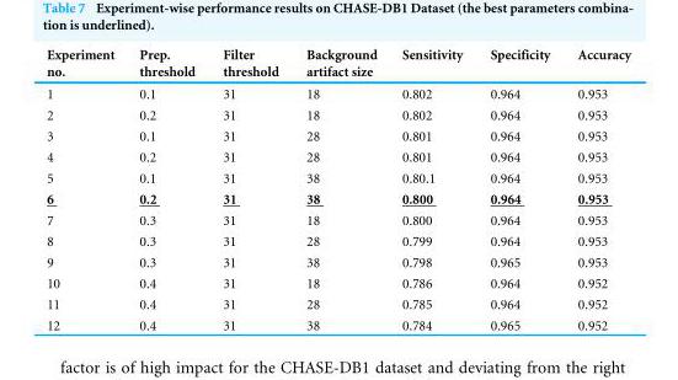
<table><thead><tr><td>Experiment no.</td><td>Prep. threshold</td><td>Filter threshold</td><td>Background artifact size</td><td>Sensitivity</td><td>Specificity</td><td>Accuracy</td></tr></thead><tbody><tr><td>1</td><td>0.1</td><td>31</td><td>18</td><td>0.802</td><td>0.964</td><td>0.953</td></tr><tr><td>2</td><td>0.2</td><td>31</td><td>18</td><td>0.802</td><td>0.964</td><td>0.953</td></tr><tr><td>3</td><td>0.1</td><td>31</td><td>28</td><td>0.801</td><td>0.964</td><td>0.953</td></tr><tr><td>4</td><td>0.2</td><td>31</td><td>28</td><td>0.801</td><td>0.964</td><td>0.953</td></tr><tr><td>5</td><td>0.1</td><td>31</td><td>38</td><td>0.80.1</td><td>0.964</td><td>0.953</td></tr><tr><td>6</td><td>0.2</td><td>31</td><td>38</td><td>0.800</td><td>0.964</td><td>0.953</td></tr><tr><td>7</td><td>0.3</td><td>31</td><td>18</td><td>0.800</td><td>0.964</td><td>0.953</td></tr><tr><td>8</td><td>0.3</td><td>31</td><td>28</td><td>0.799</td><td>0.964</td><td>0.953</td></tr><tr><td>9</td><td>0.3</td><td>31</td><td>38</td><td>0.798</td><td>0.965</td><td>0.953</td></tr><tr><td>10</td><td>0.4</td><td>31</td><td>18</td><td>0.786</td><td>0.964</td><td>0.952</td></tr><tr><td>11</td><td>0.4</td><td>31</td><td>28</td><td>0.785</td><td>0.964</td><td>0.952</td></tr><tr><td>12</td><td>0.4</td><td>31</td><td>38</td><td>0.784</td><td>0.965</td><td>0.952</td></tr></tbody></table>